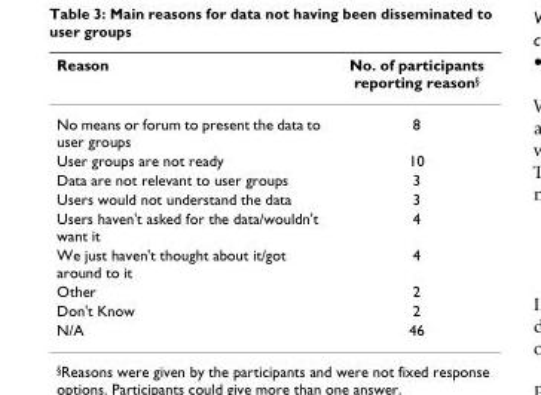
<table><thead><tr><td>Reason</td><td>No. of participants reporting reason<sup>§</sup></td></tr></thead><tbody><tr><td>No means or forum to present the data to user groups</td><td>8</td></tr><tr><td>User groups are not ready</td><td>10</td></tr><tr><td>Data are not relevant to user groups</td><td>3</td></tr><tr><td>Users would not understand the data</td><td>3</td></tr><tr><td>Users haven&#x27;t asked for the data/wouldn&#x27;t want it</td><td>4</td></tr><tr><td>We just haven&#x27;t thought about it/got around to it</td><td>4</td></tr><tr><td>Other</td><td>2</td></tr><tr><td>Don&#x27;t Know</td><td>2</td></tr><tr><td>N/A</td><td>46</td></tr></tbody></table>